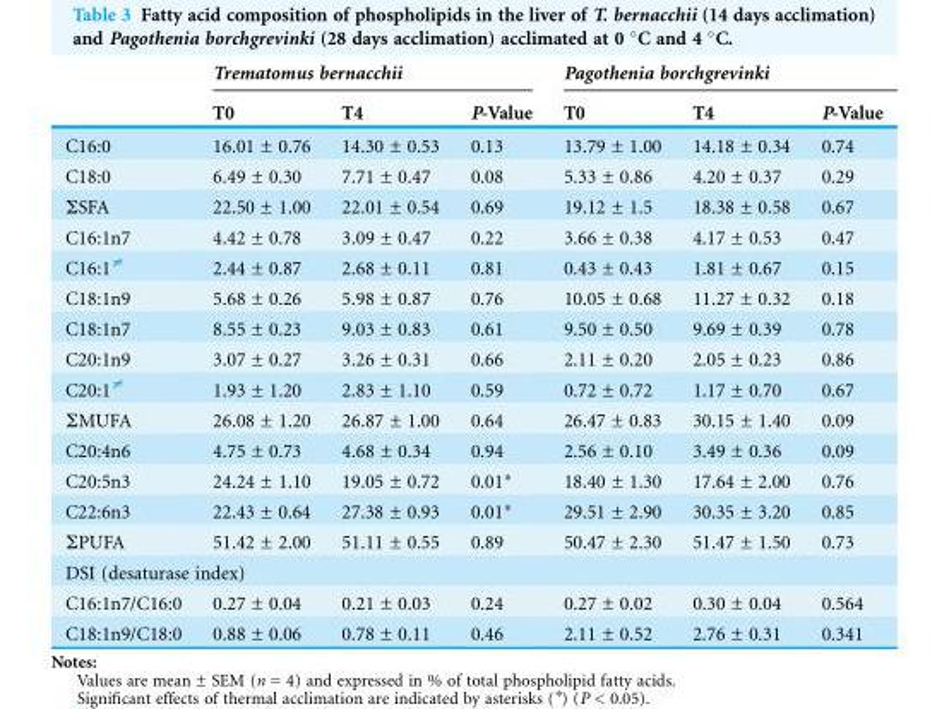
<table><thead><tr><td rowspan="2"></td><td colspan="3">Trematomus bernacchii</td><td colspan="3">Pagothenia borchgrevinki</td></tr><tr><td>T0</td><td>T4</td><td>P-Value</td><td>T0</td><td>T4</td><td>P-Value</td></tr></thead><tbody><tr><td>C16:0</td><td>16.01 ± 0.76</td><td>14.30 ± 0.53</td><td>0.13</td><td>13.79 ± 1.00</td><td>14.18 ± 0.34</td><td>0.74</td></tr><tr><td>C18:0</td><td>6.49 ± 0.30</td><td>7.71 ± 0.47</td><td>0.08</td><td>5.33 ± 0.86</td><td>4.20 ± 0.37</td><td>0.29</td></tr><tr><td>ΣSFA</td><td>22.50 ± 1.00</td><td>22.01 ± 0.54</td><td>0.69</td><td>19.12 ± 1.5</td><td>18.38 ± 0.58</td><td>0.67</td></tr><tr><td>C16:1n7</td><td>4.42 ± 0.78</td><td>3.09 ± 0.47</td><td>0.22</td><td>3.66 ± 0.38</td><td>4.17 ± 0.53</td><td>0.47</td></tr><tr><td>C16:1<sup>≠</sup></td><td>2.44 ± 0.87</td><td>2.68 ± 0.11</td><td>0.81</td><td>0.43 ± 0.43</td><td>1.81 ± 0.67</td><td>0.15</td></tr><tr><td>C18:1n9</td><td>5.68 ± 0.26</td><td>5.98 ± 0.87</td><td>0.76</td><td>10.05 ± 0.68</td><td>11.27 ± 0.32</td><td>0.18</td></tr><tr><td>C18:1n7</td><td>8.55 ± 0.23</td><td>9.03 ± 0.83</td><td>0.61</td><td>9.50 ± 0.50</td><td>9.69 ± 0.39</td><td>0.78</td></tr><tr><td>C20:1n9</td><td>3.07 ± 0.27</td><td>3.26 ± 0.31</td><td>0.66</td><td>2.11 ± 0.20</td><td>2.05 ± 0.23</td><td>0.86</td></tr><tr><td>C20:1<sup>≠</sup></td><td>1.93 ± 1.20</td><td>2.83 ± 1.10</td><td>0.59</td><td>0.72 ± 0.72</td><td>1.17 ± 0.70</td><td>0.67</td></tr><tr><td>ΣMUFA</td><td>26.08 ± 1.20</td><td>26.87 ± 1.00</td><td>0.64</td><td>26.47 ± 0.83</td><td>30.15 ± 1.40</td><td>0.09</td></tr><tr><td>C20:4n6</td><td>4.75 ± 0.73</td><td>4.68 ± 0.34</td><td>0.94</td><td>2.56 ± 0.10</td><td>3.49 ± 0.36</td><td>0.09</td></tr><tr><td>C20:5n3</td><td>24.24 ± 1.10</td><td>19.05 ± 0.72</td><td>0.01*</td><td>18.40 ± 1.30</td><td>17.64 ± 2.00</td><td>0.76</td></tr><tr><td>C22:6n3</td><td>22.43 ± 0.64</td><td>27.38 ± 0.93</td><td>0.01*</td><td>29.51 ± 2.90</td><td>30.35 ± 3.20</td><td>0.85</td></tr><tr><td>ΣPUFA</td><td>51.42 ± 2.00</td><td>51.11 ± 0.55</td><td>0.89</td><td>50.47 ± 2.30</td><td>51.47 ± 1.50</td><td>0.73</td></tr><tr><td colspan="7">DSI (desaturase index)</td></tr><tr><td>C16:1n7/C16:0</td><td>0.27 ± 0.04</td><td>0.21 ± 0.03</td><td>0.24</td><td>0.27 ± 0.02</td><td>0.30 ± 0.04</td><td>0.564</td></tr><tr><td>C18:1n9/C18:0</td><td>0.88 ± 0.06</td><td>0.78 ± 0.11</td><td>0.46</td><td>2.11 ± 0.52</td><td>2.76 ± 0.31</td><td>0.341</td></tr></tbody></table>